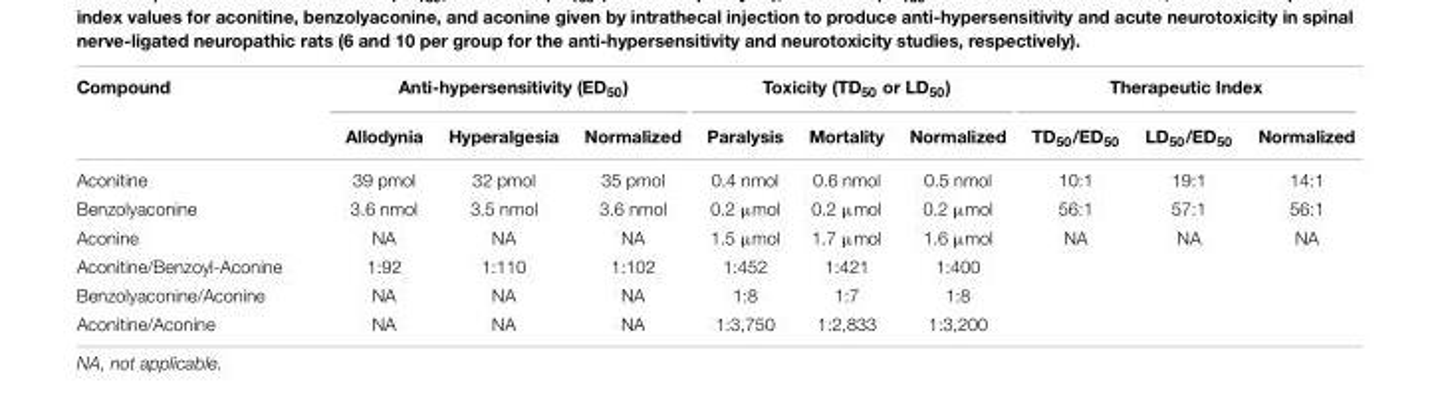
<table><thead><tr><td rowspan="2">Compound</td><td colspan="3">Anti-hypersensitivity (ED<sub>50</sub>)</td><td colspan="3">Toxicity (TD<sub>50</sub> or LD<sub>50</sub>)</td><td colspan="3">Therapeutic Index</td></tr><tr><td>Allodynia</td><td>Hyperalgesia</td><td>Normalized</td><td>Paralysis</td><td>Mortality</td><td>Normalized</td><td>TD<sub>50</sub>/ED<sub>50</sub></td><td>LD<sub>50</sub>/ED<sub>50</sub></td><td>Normalized</td></tr></thead><tbody><tr><td>Aconitine</td><td>39 pmol</td><td>32 pmol</td><td>35 pmol</td><td>0.4 nmol</td><td>0.6 nmol</td><td>0.5 nmol</td><td>10:1</td><td>19:1</td><td>14:1</td></tr><tr><td>Benzolyaconine</td><td>3.6 nmol</td><td>3.5 nmol</td><td>3.6 nmol</td><td>0.2 µmol</td><td>0.2 µmol</td><td>0.2 µmol</td><td>56:1</td><td>57:1</td><td>56:1</td></tr><tr><td>Aconine</td><td>NA</td><td>NA</td><td>NA</td><td>1.5 µmol</td><td>1.7 µmol</td><td>1.6 µmol</td><td>NA</td><td>NA</td><td>NA</td></tr><tr><td>Aconitine/Benzoyl-Aconine</td><td>1:92</td><td>1:110</td><td>1:102</td><td>1:452</td><td>1:421</td><td>1:400</td><td></td><td></td><td></td></tr><tr><td>Benzolyaconine/Aconine</td><td>NA</td><td>NA</td><td>NA</td><td>1:8</td><td>1:7</td><td>1:8</td><td></td><td></td><td></td></tr><tr><td>Aconitine/Aconine</td><td>NA</td><td>NA</td><td>NA</td><td>1:3,750</td><td>1:2,833</td><td>1:3,200</td><td></td><td></td><td></td></tr></tbody></table>